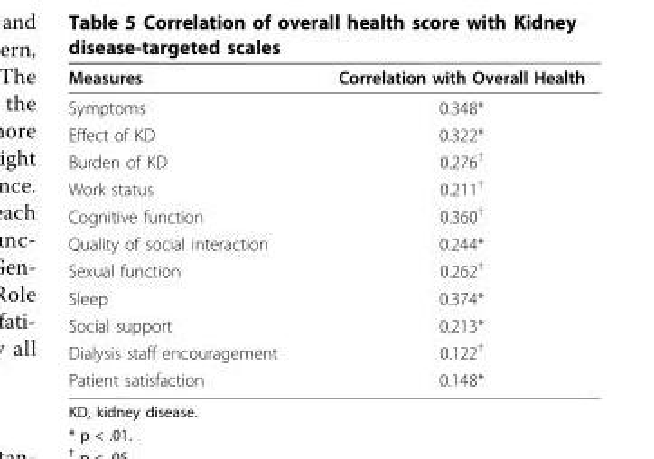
<table><thead><tr><td>Measures</td><td>Correlation with Overall Health</td></tr></thead><tbody><tr><td>Symptoms</td><td>0.348*</td></tr><tr><td>Effect of KD</td><td>0.322*</td></tr><tr><td>Burden of KD</td><td>0.276<sup>†</sup></td></tr><tr><td>Work status</td><td>0.211<sup>†</sup></td></tr><tr><td>Cognitive function</td><td>0.360<sup>†</sup></td></tr><tr><td>Quality of social interaction</td><td>0.244*</td></tr><tr><td>Sexual function</td><td>0.262<sup>†</sup></td></tr><tr><td>Sleep</td><td>0.374*</td></tr><tr><td>Social support</td><td>0.213*</td></tr><tr><td>Dialysis staff encouragement</td><td>0.122<sup>†</sup></td></tr><tr><td>Patient satisfaction</td><td>0.148*</td></tr></tbody></table>